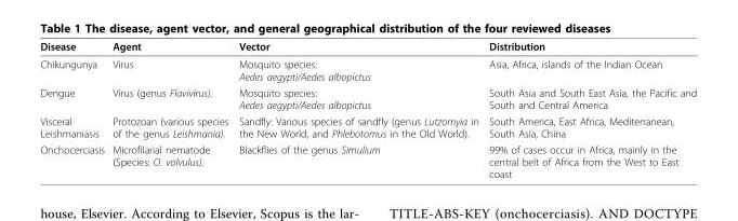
<table><thead><tr><td>Disease</td><td>Agent</td><td>Vector</td><td>Distribution</td></tr></thead><tbody><tr><td>Chikungunya</td><td>Virus</td><td>Mosquito species: Aedes aegypti/Aedes albopictus</td><td>Asia, Africa, islands of the Indian Ocean</td></tr><tr><td>Dengue</td><td>Virus (genus Flavivirus).</td><td>Mosquito species: Aedes aegypti/Aedes albopictus</td><td>South Asia and South East Asia, the Pacific and South and Central America</td></tr><tr><td>Visceral Leishmaniasis</td><td>Protozoan (various species of the genus Leishmania).</td><td>Sandfly: Various species of sandfly (genus Lutzomyia in the New World, and Phlebotomus in the Old World).</td><td>South America, East Africa, Mediterranean, South Asia, China</td></tr><tr><td>Onchocerciasis</td><td>Microfilarial nematode (Species: O. volvulus).</td><td>Blackflies of the genus Simulium</td><td>99% of cases occur in Africa, mainly in the central belt of Africa from the West to East coast</td></tr></tbody></table>